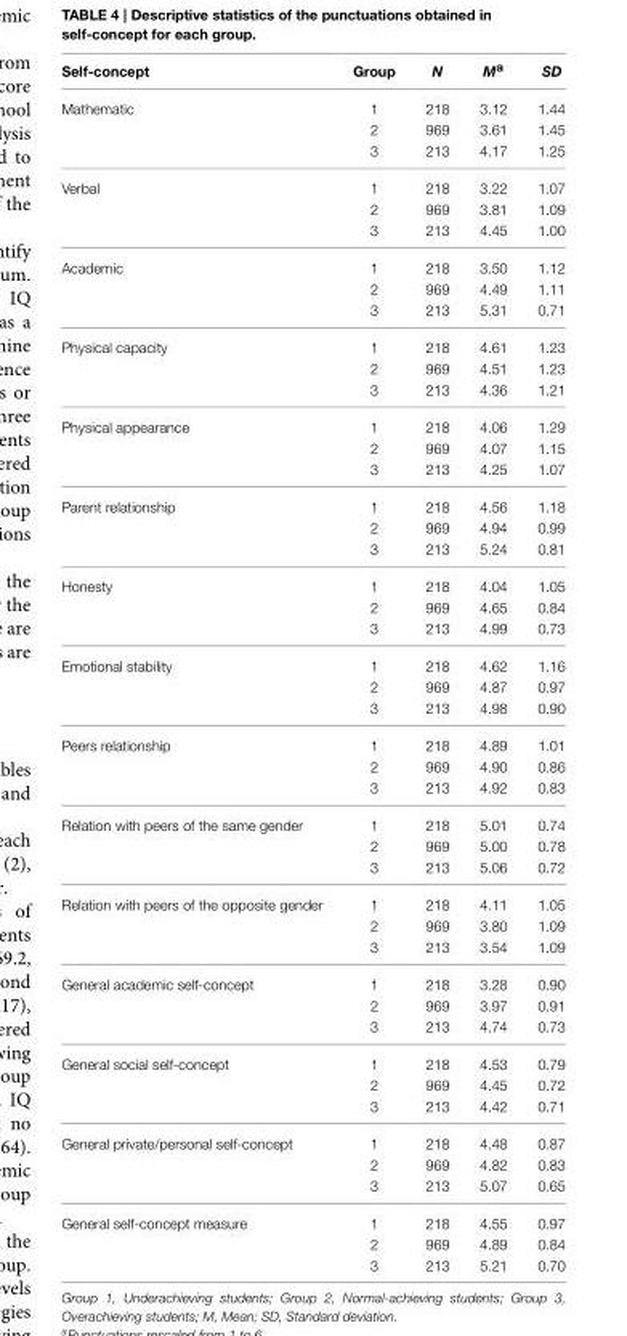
<table><thead><tr><td>Self-concept</td><td>Group</td><td>N</td><td>M<sup>a</sup></td><td>SD</td></tr></thead><tbody><tr><td rowspan="3">Mathematic</td><td>1</td><td>218</td><td>3.12</td><td>1.44</td></tr><tr><td>2</td><td>969</td><td>3.61</td><td>1.45</td></tr><tr><td>3</td><td>213</td><td>4.17</td><td>1.25</td></tr><tr><td rowspan="3">Verbal</td><td>1</td><td>218</td><td>3.22</td><td>1.07</td></tr><tr><td>2</td><td>969</td><td>3.81</td><td>1.09</td></tr><tr><td>3</td><td>213</td><td>4.45</td><td>1.00</td></tr><tr><td rowspan="3">Academic</td><td>1</td><td>218</td><td>3.50</td><td>1.12</td></tr><tr><td>2</td><td>969</td><td>4.49</td><td>1.11</td></tr><tr><td>3</td><td>213</td><td>5.31</td><td>0.71</td></tr><tr><td rowspan="3">Physical capacity</td><td>1</td><td>218</td><td>4.61</td><td>1.23</td></tr><tr><td>2</td><td>969</td><td>4.51</td><td>1.23</td></tr><tr><td>3</td><td>213</td><td>4.36</td><td>1.21</td></tr><tr><td rowspan="3">Physical appearance</td><td>1</td><td>218</td><td>4.06</td><td>1.29</td></tr><tr><td>2</td><td>969</td><td>4.07</td><td>1.15</td></tr><tr><td>3</td><td>213</td><td>4.25</td><td>1.07</td></tr><tr><td rowspan="3">Parent relationship</td><td>1</td><td>218</td><td>4.56</td><td>1.18</td></tr><tr><td>2</td><td>969</td><td>4.94</td><td>0.99</td></tr><tr><td>3</td><td>213</td><td>5.24</td><td>0.81</td></tr><tr><td rowspan="3">Honesty</td><td>1</td><td>218</td><td>4.04</td><td>1.05</td></tr><tr><td>2</td><td>969</td><td>4.65</td><td>0.84</td></tr><tr><td>3</td><td>213</td><td>4.99</td><td>0.73</td></tr><tr><td rowspan="3">Emotional stability</td><td>1</td><td>218</td><td>4.62</td><td>1.16</td></tr><tr><td>2</td><td>969</td><td>4.87</td><td>0.97</td></tr><tr><td>3</td><td>213</td><td>4.98</td><td>0.90</td></tr><tr><td rowspan="3">Peers relationship</td><td>1</td><td>218</td><td>4.89</td><td>1.01</td></tr><tr><td>2</td><td>969</td><td>4.90</td><td>0.86</td></tr><tr><td>3</td><td>213</td><td>4.92</td><td>0.83</td></tr><tr><td rowspan="3">Relation with peers of the same gender</td><td>1</td><td>218</td><td>5.01</td><td>0.74</td></tr><tr><td>2</td><td>969</td><td>5.00</td><td>0.78</td></tr><tr><td>3</td><td>213</td><td>5.06</td><td>0.72</td></tr><tr><td rowspan="3">Relation with peers of the opposite gender</td><td>1</td><td>218</td><td>4.11</td><td>1.05</td></tr><tr><td>2</td><td>969</td><td>3.80</td><td>1.09</td></tr><tr><td>3</td><td>213</td><td>3.54</td><td>1.09</td></tr><tr><td rowspan="3">General academic self-concept</td><td>1</td><td>218</td><td>3.28</td><td>0.90</td></tr><tr><td>2</td><td>969</td><td>3.97</td><td>0.91</td></tr><tr><td>3</td><td>213</td><td>4.74</td><td>0.73</td></tr><tr><td rowspan="3">General social self-concept</td><td>1</td><td>218</td><td>4.53</td><td>0.79</td></tr><tr><td>2</td><td>969</td><td>4.45</td><td>0.72</td></tr><tr><td>3</td><td>213</td><td>4.42</td><td>0.71</td></tr><tr><td rowspan="3">General private/personal self-concept</td><td>1</td><td>218</td><td>4.48</td><td>0.87</td></tr><tr><td>2</td><td>969</td><td>4.82</td><td>0.83</td></tr><tr><td>3</td><td>213</td><td>5.07</td><td>0.65</td></tr><tr><td rowspan="3">General self-concept measure</td><td>1</td><td>218</td><td>4.55</td><td>0.97</td></tr><tr><td>2</td><td>969</td><td>4.89</td><td>0.84</td></tr><tr><td>3</td><td>213</td><td>5.21</td><td>0.70</td></tr></tbody></table>